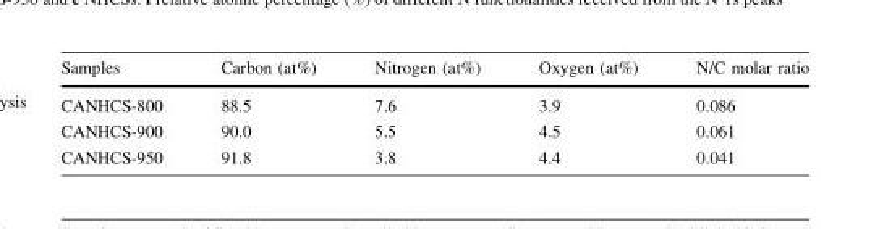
<table><thead><tr><td>Samples</td><td>Carbon (at%)</td><td>Nitrogen (at%)</td><td>Oxygen (at%)</td><td>N/C molar ratio</td></tr></thead><tbody><tr><td>CANHCS-800</td><td>88.5</td><td>7.6</td><td>3.9</td><td>0.086</td></tr><tr><td>CANHCS-900</td><td>90.0</td><td>5.5</td><td>4.5</td><td>0.061</td></tr><tr><td>CANHCS-950</td><td>91.8</td><td>3.8</td><td>4.4</td><td>0.041</td></tr></tbody></table>